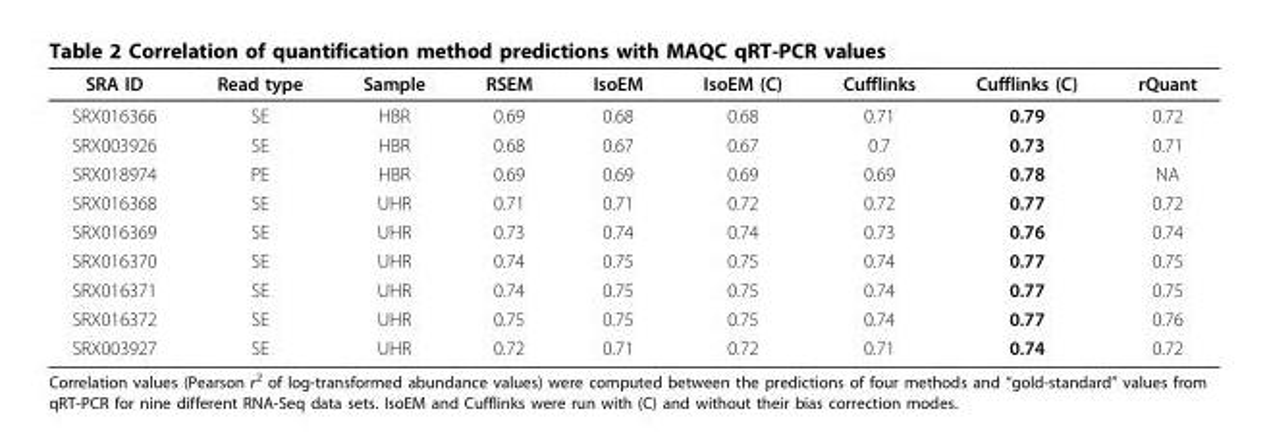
<table><thead><tr><td>SRA ID</td><td>Read type</td><td>Sample</td><td>RSEM</td><td>IsoEM</td><td>IsoEM (C)</td><td>Cufflinks</td><td>Cufflinks (C)</td><td>rQuant</td></tr></thead><tbody><tr><td>SRX016366</td><td>SE</td><td>HBR</td><td>0.69</td><td>0.68</td><td>0.68</td><td>0.71</td><td>0.79</td><td>0.72</td></tr><tr><td>SRX003926</td><td>SE</td><td>HBR</td><td>0.68</td><td>0.67</td><td>0.67</td><td>0.7</td><td>0.73</td><td>0.71</td></tr><tr><td>SRX018974</td><td>PE</td><td>HBR</td><td>0.69</td><td>0.69</td><td>0.69</td><td>0.69</td><td>0.78</td><td>NA</td></tr><tr><td>SRX016368</td><td>SE</td><td>UHR</td><td>0.71</td><td>0.71</td><td>0.72</td><td>0.72</td><td>0.77</td><td>0.72</td></tr><tr><td>SRX016369</td><td>SE</td><td>UHR</td><td>0.73</td><td>0.74</td><td>0.74</td><td>0.73</td><td>0.76</td><td>0.74</td></tr><tr><td>SRX016370</td><td>SE</td><td>UHR</td><td>0.74</td><td>0.75</td><td>0.75</td><td>0.74</td><td>0.77</td><td>0.75</td></tr><tr><td>SRX016371</td><td>SE</td><td>UHR</td><td>0.74</td><td>0.75</td><td>0.75</td><td>0.74</td><td>0.77</td><td>0.75</td></tr><tr><td>SRX016372</td><td>SE</td><td>UHR</td><td>0.75</td><td>0.75</td><td>0.75</td><td>0.74</td><td>0.77</td><td>0.76</td></tr><tr><td>SRX003927</td><td>SE</td><td>UHR</td><td>0.72</td><td>0.71</td><td>0.72</td><td>0.71</td><td>0.74</td><td>0.72</td></tr></tbody></table>